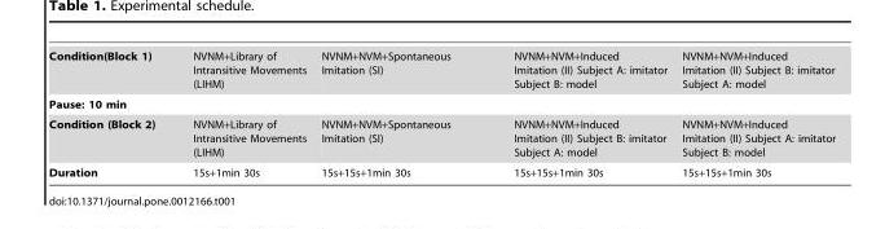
<table><tbody><tr><td>Condition(Block 1)</td><td>NVNM+Library of Intransitive Movements (LIHM)</td><td>NVNM+NVM+Spontaneous Imitation (SI)</td><td>NVNM+NVM+Induced Imitation (II) Subject A: imitator Subject B: model</td><td>NVNM+NVM+Induced Imitation (II) Subject B: imitator Subject A: model</td></tr><tr><td colspan="5">Pause: 10 min</td></tr><tr><td>Condition (Block 2)</td><td>NVNM+Library of Intransitive Movements (LIHM)</td><td>NVNM+NVM+Spontaneous Imitation (SI)</td><td>NVNM+NVM+Induced Imitation (II) Subject B: imitator Subject A: model</td><td>NVNM+NVM+Induced Imitation (II) Subject A: imitator Subject B: model</td></tr><tr><td>Duration</td><td>15s+1min 30s</td><td>15s+15s+1min 30s</td><td>15s+15s+1min 30s</td><td>15s+15s+1min 30s</td></tr></tbody></table>